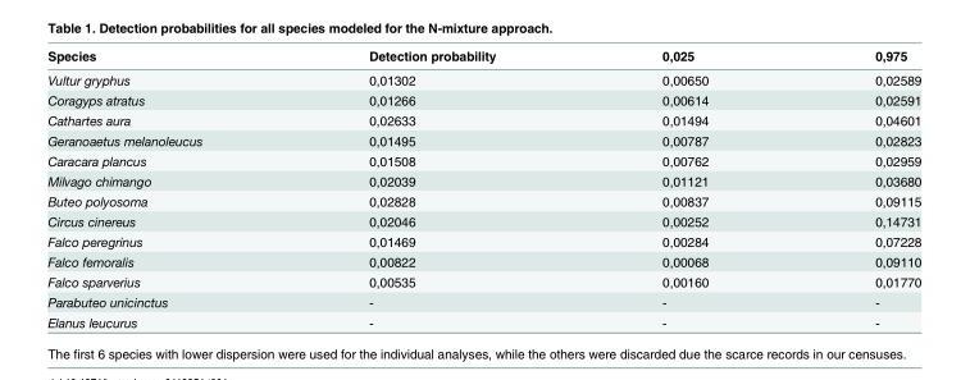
<table><thead><tr><td>Species</td><td>Detection probability</td><td>0,025</td><td>0,975</td></tr></thead><tbody><tr><td>Vultur gryphus</td><td>0,01302</td><td>0,00650</td><td>0,02589</td></tr><tr><td>Coragyps atratus</td><td>0,01266</td><td>0,00614</td><td>0,02591</td></tr><tr><td>Cathartes aura</td><td>0,02633</td><td>0,01494</td><td>0,04601</td></tr><tr><td>Geranoaetus melanoleucus</td><td>0,01495</td><td>0,00787</td><td>0,02823</td></tr><tr><td>Caracara plancus</td><td>0,01508</td><td>0,00762</td><td>0,02959</td></tr><tr><td>Milvago chimango</td><td>0,02039</td><td>0,01121</td><td>0,03680</td></tr><tr><td>Buteo polyosoma</td><td>0,02828</td><td>0,00837</td><td>0,09115</td></tr><tr><td>Circus cinereus</td><td>0,02046</td><td>0,00252</td><td>0,14731</td></tr><tr><td>Falco peregrinus</td><td>0,01469</td><td>0,00284</td><td>0,07228</td></tr><tr><td>Falco femoralis</td><td>0,00822</td><td>0,00068</td><td>0,09110</td></tr><tr><td>Falco sparverius</td><td>0,00535</td><td>0,00160</td><td>0,01770</td></tr><tr><td>Parabuteo unicinctus</td><td>-</td><td>-</td><td>-</td></tr><tr><td>Elanus leucurus</td><td>-</td><td>-</td><td>-</td></tr></tbody></table>